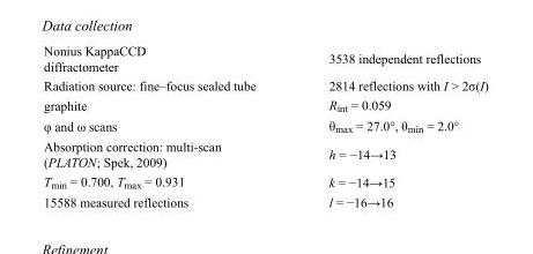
<table><tbody><tr><td>Nonius KappaCCD diffractometer</td><td>3538 independent reflections</td></tr><tr><td>Radiation source: fine–focus sealed tube</td><td>2814 reflections with I &gt; 2σ(I)</td></tr><tr><td>graphite</td><td>R<sub>int</sub> = 0.059</td></tr><tr><td>φ and ω scans</td><td>θ<sub>max</sub> = 27.0°, θ<sub>min</sub> = 2.0°</td></tr><tr><td>Absorption correction: multi-scan (PLATON; Spek, 2009)</td><td>h = −14→13</td></tr><tr><td>T<sub>min</sub> = 0.700, T<sub>max</sub> = 0.931</td><td>k = −14→15</td></tr><tr><td>15588 measured reflections</td><td>l = −16→16</td></tr></tbody></table>